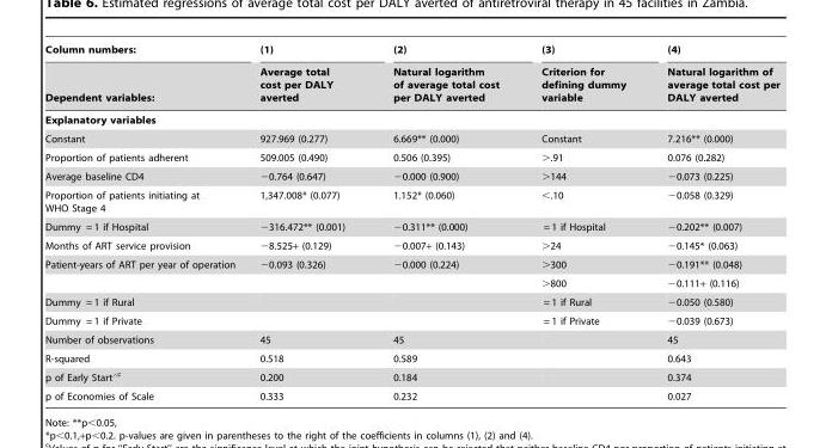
<table><thead><tr><td rowspan="2">Column numbers: Dependent variables:</td><td rowspan="2">(1) Average total cost per DALY averted</td><td rowspan="2">(2) Natural logarithm of average total cost per DALY averted</td><td rowspan="2">(3) Criterion for defining dummy variable</td><td rowspan="2">(4) Natural logarithm of average total cost per DALY averted</td></tr><tr></tr></thead><tbody><tr><td colspan="5">Explanatory variables</td></tr><tr><td>Constant</td><td>927.969 (0.277)</td><td>6.669** (0.000)</td><td>Constant</td><td>7.216** (0.000)</td></tr><tr><td>Proportion of patients adherent</td><td>509.005 (0.490)</td><td>0.506 (0.395)</td><td>&gt;.91</td><td>0.076 (0.282)</td></tr><tr><td>Average baseline CD4</td><td>−0.764 (0.647)</td><td>−0.000 (0.900)</td><td>&gt;144</td><td>−0.073 (0.225)</td></tr><tr><td>Proportion of patients initiating at WHO Stage 4</td><td>1,347.008* (0.077)</td><td>1.152* (0.060)</td><td>&lt;.10</td><td>−0.058 (0.329)</td></tr><tr><td>Dummy = 1 if Hospital</td><td>−316.472** (0.001)</td><td>−0.311** (0.000)</td><td>= 1 if Hospital</td><td>−0.202** (0.007)</td></tr><tr><td>Months of ART service provision</td><td>−8.525+ (0.129)</td><td>−0.007+ (0.143)</td><td>&gt;24</td><td>−0.145* (0.063)</td></tr><tr><td rowspan="2">Patient-years of ART per year of operation</td><td>−0.093 (0.326)</td><td>−0.000 (0.224)</td><td>&gt;300</td><td>−0.191** (0.048)</td></tr><tr><td></td><td></td><td>&gt;800</td><td>−0.111+ (0.116)</td></tr><tr><td>Dummy = 1 if Rural</td><td></td><td></td><td>= 1 if Rural</td><td>−0.050 (0.580)</td></tr><tr><td>Dummy = 1 if Private</td><td></td><td></td><td>= 1 if Private</td><td>−0.039 (0.673)</td></tr><tr><td>Number of observations</td><td>45</td><td>45</td><td></td><td>45</td></tr><tr><td>R-squared</td><td>0.518</td><td>0.589</td><td></td><td>0.643</td></tr><tr><td>p of Early Start‘c</td><td>0.200</td><td>0.184</td><td></td><td>0.374</td></tr><tr><td>p of Economies of Scale</td><td>0.333</td><td>0.232</td><td></td><td>0.027</td></tr></tbody></table>